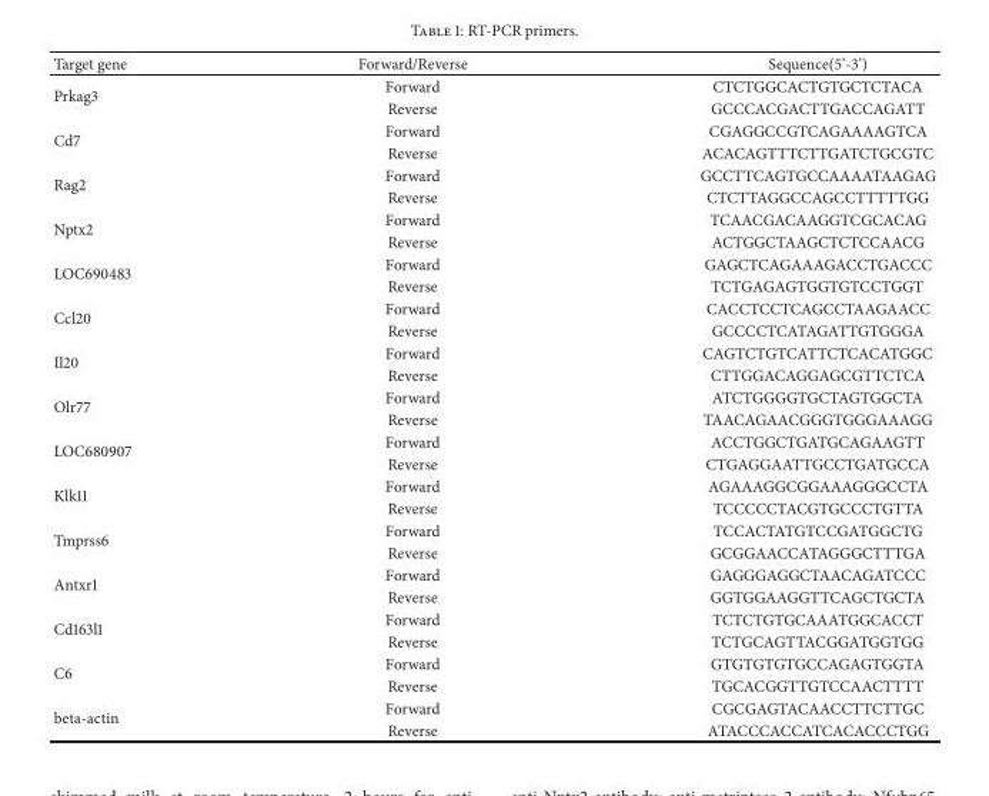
<table><thead><tr><td>Target gene</td><td>Forward/Reverse</td><td>Sequence(5’-3’)</td></tr></thead><tbody><tr><td rowspan="2">Prkag3</td><td>Forward</td><td>CTCTGGCACTGTGCTCTACA</td></tr><tr><td>Reverse</td><td>GCCCACGACTTGACCAGATT</td></tr><tr><td rowspan="2">Cd7</td><td>Forward</td><td>CGAGGCCGTCAGAAAAGTCA</td></tr><tr><td>Reverse</td><td>ACACAGTTTCTTGATCTGCGTC</td></tr><tr><td rowspan="2">Rag2</td><td>Forward</td><td>GCCTTCAGTGCCAAAATAAGAG</td></tr><tr><td>Reverse</td><td>CTCTTAGGCCAGCCTTTTTGG</td></tr><tr><td rowspan="2">Nptx2</td><td>Forward</td><td>TCAACGACAAGGTCGCACAG</td></tr><tr><td>Reverse</td><td>ACTGGCTAAGCTCTCCAACG</td></tr><tr><td rowspan="2">LOC690483</td><td>Forward</td><td>GAGCTCAGAAAGACCTGACCC</td></tr><tr><td>Reverse</td><td>TCTGAGAGTGGTGTCCTGGT</td></tr><tr><td rowspan="2">Ccl20</td><td>Forward</td><td>CACCTCCTCAGCCTAAGAACC</td></tr><tr><td>Reverse</td><td>GCCCCTCATAGATTGTGGGA</td></tr><tr><td rowspan="2">Il20</td><td>Forward</td><td>CAGTCTGTCATTCTCACATGGC</td></tr><tr><td>Reverse</td><td>CTTGGACAGGAGCGTTCTCA</td></tr><tr><td rowspan="2">Olr77</td><td>Forward</td><td>ATCTGGGGTGCTAGTGGCTA</td></tr><tr><td>Reverse</td><td>TAACAGAACGGGTGGGAAAGG</td></tr><tr><td rowspan="2">LOC680907</td><td>Forward</td><td>ACCTGGCTGATGCAGAAGTT</td></tr><tr><td>Reverse</td><td>CTGAGGAATTGCCTGATGCCA</td></tr><tr><td rowspan="2">Klk11</td><td>Forward</td><td>AGAAAGGCGGAAAGGGCCTA</td></tr><tr><td>Reverse</td><td>TCCCCCTACGTGCCCTGTTA</td></tr><tr><td rowspan="2">Tmprss6</td><td>Forward</td><td>TCCACTATGTCCGATGGCTG</td></tr><tr><td>Reverse</td><td>GCGGAACCATAGGGCTTTGA</td></tr><tr><td rowspan="2">Antxr1</td><td>Forward</td><td>GAGGGAGGCTAACAGATCCC</td></tr><tr><td>Reverse</td><td>GGTGGAAGGTTCAGCTGCTA</td></tr><tr><td rowspan="2">Cd163l1</td><td>Forward</td><td>TCTCTGTGCAAATGGCACCT</td></tr><tr><td>Reverse</td><td>TCTGCAGTTACGGATGGTGG</td></tr><tr><td rowspan="2">C6</td><td>Forward</td><td>GTGTGTGTGCCAGAGTGGTA</td></tr><tr><td>Reverse</td><td>TGCACGGTTGTCCAACTTTT</td></tr><tr><td rowspan="2">beta-actin</td><td>Forward</td><td>CGCGAGTACAACCTTCTTGC</td></tr><tr><td>Reverse</td><td>ATACCCACCATCACACCCTGG</td></tr></tbody></table>